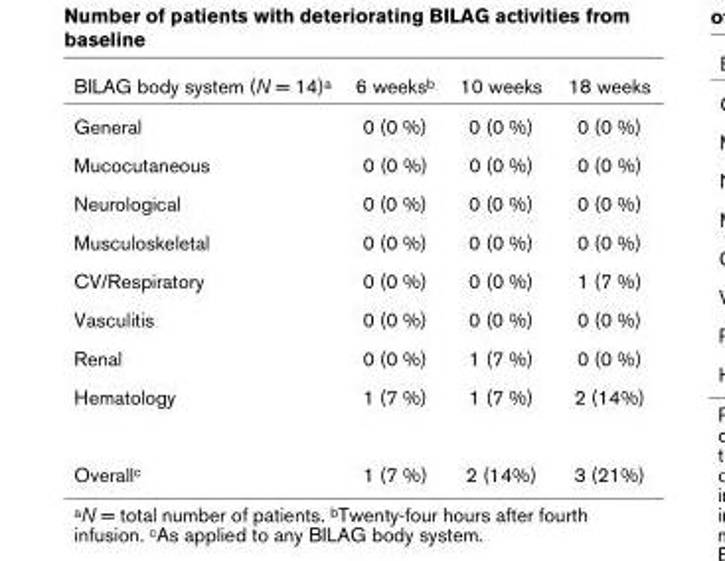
<table><thead><tr><td>BILAG body system (N = 14)a</td><td>6 weeksb</td><td>10 weeks</td><td>18 weeks</td></tr></thead><tbody><tr><td>General</td><td>0 (0 %)</td><td>0 (0 %)</td><td>0 (0 %)</td></tr><tr><td>Mucocutaneous</td><td>0 (0 %)</td><td>0 (0 %)</td><td>0 (0 %)</td></tr><tr><td>Neurological</td><td>0 (0 %)</td><td>0 (0 %)</td><td>0 (0 %)</td></tr><tr><td>Musculoskeletal</td><td>0 (0 %)</td><td>0 (0 %)</td><td>0 (0 %)</td></tr><tr><td>CV/Respiratory</td><td>0 (0 %)</td><td>0 (0 %)</td><td>1 (7 %)</td></tr><tr><td>Vasculitis</td><td>0 (0 %)</td><td>0 (0 %)</td><td>0 (0 %)</td></tr><tr><td>Renal</td><td>0 (0 %)</td><td>1 (7 %)</td><td>0 (0 %)</td></tr><tr><td>Hematology</td><td>1 (7 %)</td><td>1 (7 %)</td><td>2 (14%)</td></tr><tr><td>Overallc</td><td>1 (7 %)</td><td>2 (14%)</td><td>3 (21%)</td></tr></tbody></table>